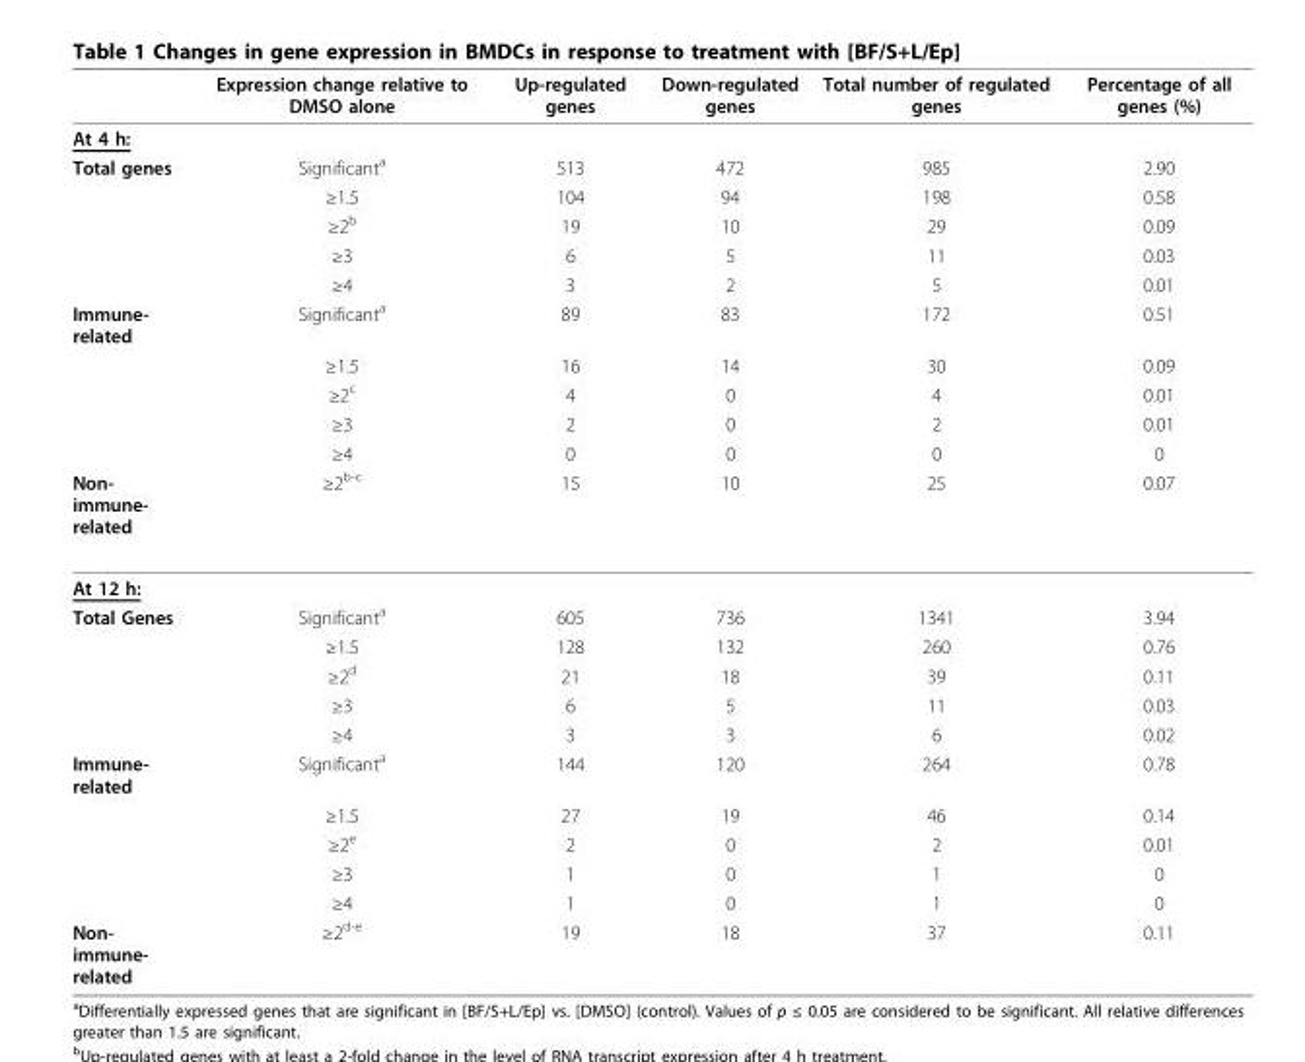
<table><thead><tr><td></td><td>Expression change relative to DMSO alone</td><td>Up-regulated genes</td><td>Down-regulated genes</td><td>Total number of regulated genes</td><td>Percentage of all genes (%)</td></tr></thead><tbody><tr><td colspan="6">At 4 h:</td></tr><tr><td rowspan="5">Total genes</td><td>Significant<sup>a</sup></td><td>513</td><td>472</td><td>985</td><td>2.90</td></tr><tr><td>≥1.5</td><td>104</td><td>94</td><td>198</td><td>0.58</td></tr><tr><td>≥2<sup>b</sup></td><td>19</td><td>10</td><td>29</td><td>0.09</td></tr><tr><td>≥3</td><td>6</td><td>5</td><td>11</td><td>0.03</td></tr><tr><td>≥4</td><td>3</td><td>2</td><td>5</td><td>0.01</td></tr><tr><td rowspan="5">Immune- related</td><td>Significant<sup>a</sup></td><td>89</td><td>83</td><td>172</td><td>0.51</td></tr><tr><td>≥1.5</td><td>16</td><td>14</td><td>30</td><td>0.09</td></tr><tr><td>≥2<sup>c</sup></td><td>4</td><td>0</td><td>4</td><td>0.01</td></tr><tr><td>≥3</td><td>2</td><td>0</td><td>2</td><td>0.01</td></tr><tr><td>≥4</td><td>0</td><td>0</td><td>0</td><td>0</td></tr><tr><td>Non- immune- related</td><td>≥2<sup>b-c</sup></td><td>15</td><td>10</td><td>25</td><td>0.07</td></tr><tr><td colspan="6">At 12 h:</td></tr><tr><td rowspan="5">Total Genes</td><td>Significant<sup>a</sup></td><td>605</td><td>736</td><td>1341</td><td>3.94</td></tr><tr><td>≥1.5</td><td>128</td><td>132</td><td>260</td><td>0.76</td></tr><tr><td>≥2<sup>d</sup></td><td>21</td><td>18</td><td>39</td><td>0.11</td></tr><tr><td>≥3</td><td>6</td><td>5</td><td>11</td><td>0.03</td></tr><tr><td>≥4</td><td>3</td><td>3</td><td>6</td><td>0.02</td></tr><tr><td rowspan="5">Immune- related</td><td>Significant<sup>a</sup></td><td>144</td><td>120</td><td>264</td><td>0.78</td></tr><tr><td>≥1.5</td><td>27</td><td>19</td><td>46</td><td>0.14</td></tr><tr><td>≥2<sup>e</sup></td><td>2</td><td>0</td><td>2</td><td>0.01</td></tr><tr><td>≥3</td><td>1</td><td>0</td><td>1</td><td>0</td></tr><tr><td>≥4</td><td>1</td><td>0</td><td>1</td><td>0</td></tr><tr><td>Non- immune- related</td><td>≥2<sup>d-e</sup></td><td>19</td><td>18</td><td>37</td><td>0.11</td></tr></tbody></table>